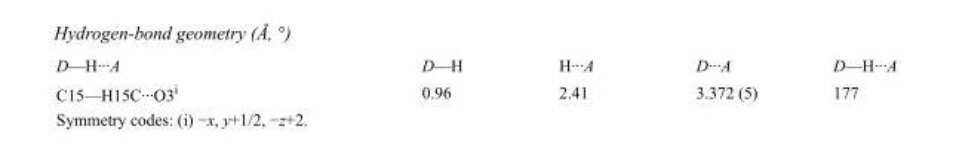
<table><tbody><tr><td>D—H···A</td><td>D—H</td><td>H···A</td><td>D···A</td><td>D—H···A</td></tr><tr><td>C15—H15C···O3<sup>i</sup></td><td>0.96</td><td>2.41</td><td>3.372 (5)</td><td>177</td></tr></tbody></table>